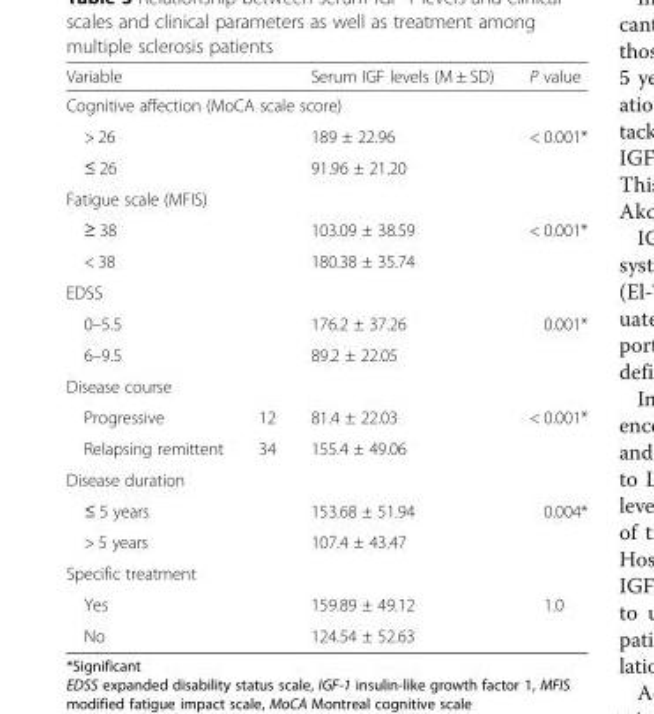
<table><thead><tr><td colspan="2">Variable</td><td>Serum IGF levels (M ± SD)</td><td>P value</td></tr></thead><tbody><tr><td colspan="4">Cognitive affection (MoCA scale score)</td></tr><tr><td colspan="2">&gt; 26</td><td>189 ± 22.96</td><td rowspan="2">&lt; 0.001*</td></tr><tr><td colspan="2">≤ 26</td><td>91.96 ± 21.20</td></tr><tr><td colspan="4">Fatigue scale (MFIS)</td></tr><tr><td colspan="2">≥ 38</td><td>103.09 ± 38.59</td><td rowspan="2">&lt; 0.001*</td></tr><tr><td colspan="2">&lt; 38</td><td>180.38 ± 35.74</td></tr><tr><td colspan="4">EDSS</td></tr><tr><td colspan="2">0–5.5</td><td>176.2 ± 37.26</td><td rowspan="2">0.001*</td></tr><tr><td colspan="2">6–9.5</td><td>89.2 ± 22.05</td></tr><tr><td colspan="4">Disease course</td></tr><tr><td>Progressive</td><td>12</td><td>81.4 ± 22.03</td><td rowspan="2">&lt; 0.001*</td></tr><tr><td>Relapsing remittent</td><td>34</td><td>155.4 ± 49.06</td></tr><tr><td colspan="4">Disease duration</td></tr><tr><td colspan="2">≤ 5 years</td><td>153.68 ± 51.94</td><td rowspan="2">0.004*</td></tr><tr><td colspan="2">&gt; 5 years</td><td>107.4 ± 43.47</td></tr><tr><td colspan="4">Specific treatment</td></tr><tr><td colspan="2">Yes</td><td>159.89 ± 49.12</td><td rowspan="2">1.0</td></tr><tr><td colspan="2">No</td><td>124.54 ± 52.63</td></tr></tbody></table>